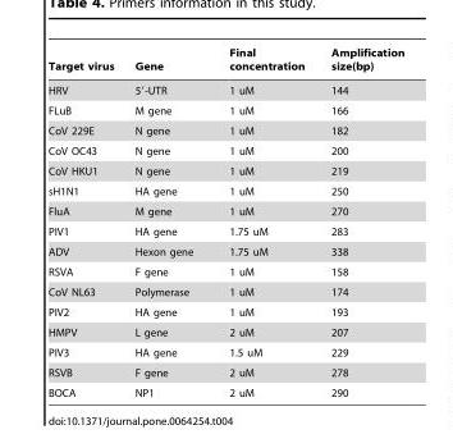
<table><thead><tr><td>Target virus</td><td>Gene</td><td>Final concentration</td><td>Amplification size(bp)</td></tr></thead><tbody><tr><td>HRV</td><td>5′-UTR</td><td>1 uM</td><td>144</td></tr><tr><td>FLuB</td><td>M gene</td><td>1 uM</td><td>166</td></tr><tr><td>CoV 229E</td><td>N gene</td><td>1 uM</td><td>182</td></tr><tr><td>CoV OC43</td><td>N gene</td><td>1 uM</td><td>200</td></tr><tr><td>CoV HKU1</td><td>N gene</td><td>1 uM</td><td>219</td></tr><tr><td>sH1N1</td><td>HA gene</td><td>1 uM</td><td>250</td></tr><tr><td>FluA</td><td>M gene</td><td>1 uM</td><td>270</td></tr><tr><td>PIV1</td><td>HA gene</td><td>1.75 uM</td><td>283</td></tr><tr><td>ADV</td><td>Hexon gene</td><td>1.75 uM</td><td>338</td></tr><tr><td>RSVA</td><td>F gene</td><td>1 uM</td><td>158</td></tr><tr><td>CoV NL63</td><td>Polymerase</td><td>1 uM</td><td>174</td></tr><tr><td>PIV2</td><td>HA gene</td><td>1 uM</td><td>193</td></tr><tr><td>HMPV</td><td>L gene</td><td>2 uM</td><td>207</td></tr><tr><td>PIV3</td><td>HA gene</td><td>1.5 uM</td><td>229</td></tr><tr><td>RSVB</td><td>F gene</td><td>2 uM</td><td>278</td></tr><tr><td>BOCA</td><td>NP1</td><td>2 uM</td><td>290</td></tr></tbody></table>